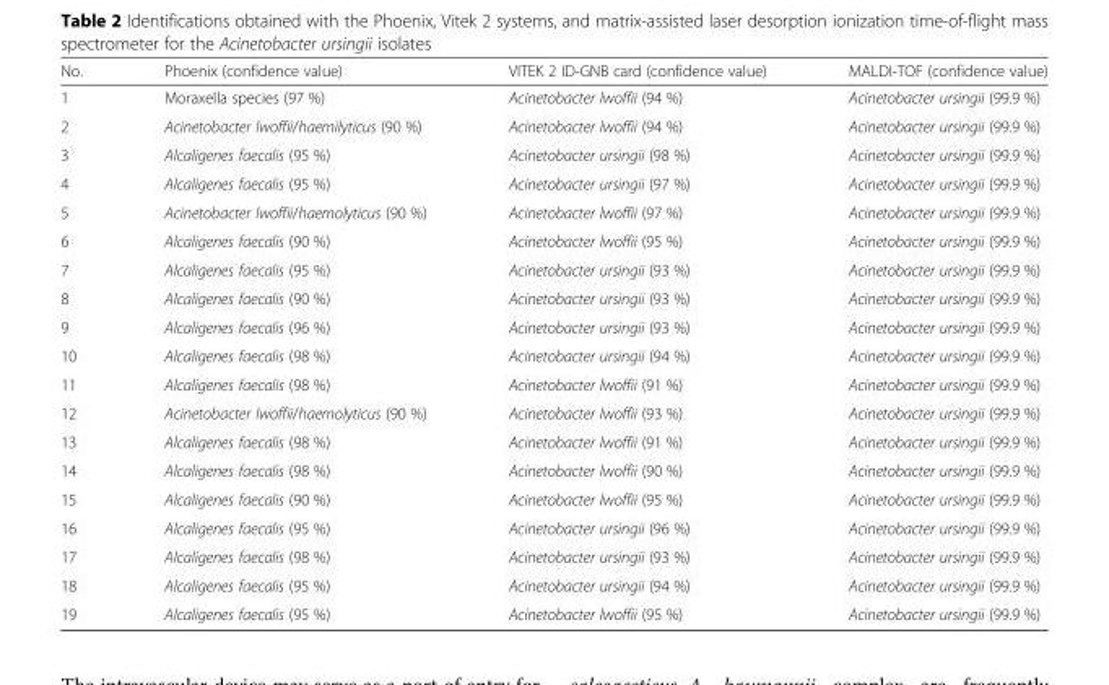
<table><thead><tr><td>No.</td><td>Phoenix (confidence value)</td><td>VITEK 2 ID-GNB card (confidence value)</td><td>MALDI-TOF (confidence value)</td></tr></thead><tbody><tr><td>1</td><td>Moraxella species (97 %)</td><td>Acinetobacter lwoffii (94 %)</td><td>Acinetobacter ursingii (99.9 %)</td></tr><tr><td>2</td><td>Acinetobacter lwoffii/haemilyticus (90 %)</td><td>Acinetobacter lwoffii (94 %)</td><td>Acinetobacter ursingii (99.9 %)</td></tr><tr><td>3</td><td>Alcaligenes faecalis (95 %)</td><td>Acinetobacter ursingii (98 %)</td><td>Acinetobacter ursingii (99.9 %)</td></tr><tr><td>4</td><td>Alcaligenes faecalis (95 %)</td><td>Acinetobacter ursingii (97 %)</td><td>Acinetobacter ursingii (99.9 %)</td></tr><tr><td>5</td><td>Acinetobacter lwoffii/haemolyticus (90 %)</td><td>Acinetobacter lwoffii (97 %)</td><td>Acinetobacter ursingii (99.9 %)</td></tr><tr><td>6</td><td>Alcaligenes faecalis (90 %)</td><td>Acinetobacter lwoffii (95 %)</td><td>Acinetobacter ursingii (99.9 %)</td></tr><tr><td>7</td><td>Alcaligenes faecalis (95 %)</td><td>Acinetobacter ursingii (93 %)</td><td>Acinetobacter ursingii (99.9 %)</td></tr><tr><td>8</td><td>Alcaligenes faecalis (90 %)</td><td>Acinetobacter ursingii (93 %)</td><td>Acinetobacter ursingii (99.9 %)</td></tr><tr><td>9</td><td>Alcaligenes faecalis (96 %)</td><td>Acinetobacter ursingii (93 %)</td><td>Acinetobacter ursingii (99.9 %)</td></tr><tr><td>10</td><td>Alcaligenes faecalis (98 %)</td><td>Acinetobacter ursingii (94 %)</td><td>Acinetobacter ursingii (99.9 %)</td></tr><tr><td>11</td><td>Alcaligenes faecalis (98 %)</td><td>Acinetobacter lwoffii (91 %)</td><td>Acinetobacter ursingii (99.9 %)</td></tr><tr><td>12</td><td>Acinetobacter lwoffii/haemolyticus (90 %)</td><td>Acinetobacter lwoffii (93 %)</td><td>Acinetobacter ursingii (99.9 %)</td></tr><tr><td>13</td><td>Alcaligenes faecalis (98 %)</td><td>Acinetobacter lwoffii (91 %)</td><td>Acinetobacter ursingii (99.9 %)</td></tr><tr><td>14</td><td>Alcaligenes faecalis (98 %)</td><td>Acinetobacter lwoffii (90 %)</td><td>Acinetobacter ursingii (99.9 %)</td></tr><tr><td>15</td><td>Alcaligenes faecalis (90 %)</td><td>Acinetobacter lwoffii (95 %)</td><td>Acinetobacter ursingii (99.9 %)</td></tr><tr><td>16</td><td>Alcaligenes faecalis (95 %)</td><td>Acinetobacter ursingii (96 %)</td><td>Acinetobacter ursingii (99.9 %)</td></tr><tr><td>17</td><td>Alcaligenes faecalis (98 %)</td><td>Acinetobacter ursingii (93 %)</td><td>Acinetobacter ursingii (99.9 %)</td></tr><tr><td>18</td><td>Alcaligenes faecalis (95 %)</td><td>Acinetobacter ursingii (94 %)</td><td>Acinetobacter ursingii (99.9 %)</td></tr><tr><td>19</td><td>Alcaligenes faecalis (95 %)</td><td>Acinetobacter lwoffii (95 %)</td><td>Acinetobacter ursingii (99.9 %)</td></tr></tbody></table>